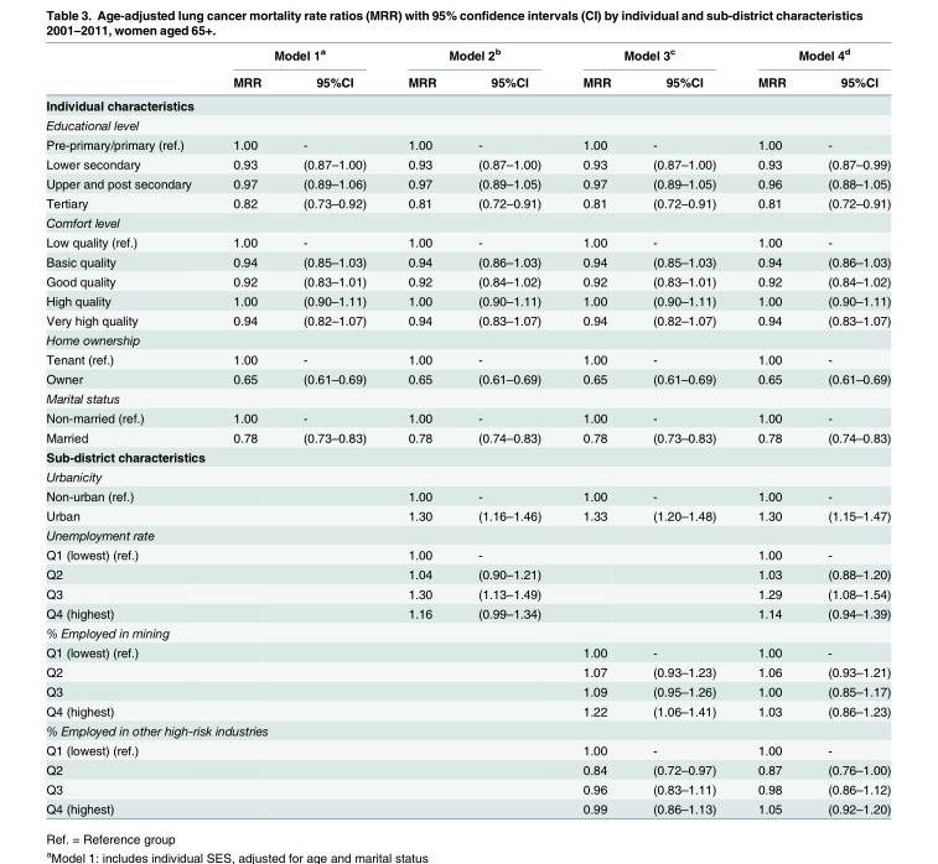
<table><thead><tr><td rowspan="2"></td><td colspan="2">Model 1<sup>a</sup></td><td colspan="2">Model 2<sup>b</sup></td><td colspan="2">Model 3<sup>c</sup></td><td colspan="2">Model 4<sup>d</sup></td></tr><tr><td>MRR</td><td>95%CI</td><td>MRR</td><td>95%CI</td><td>MRR</td><td>95%CI</td><td>MRR</td><td>95%CI</td></tr></thead><tbody><tr><td colspan="9">Individual characteristics</td></tr><tr><td colspan="9">Educational level</td></tr><tr><td>Pre-primary/primary (ref.)</td><td>1.00</td><td>-</td><td>1.00</td><td>-</td><td>1.00</td><td>-</td><td>1.00</td><td>-</td></tr><tr><td>Lower secondary</td><td>0.93</td><td>(0.87–1.00)</td><td>0.93</td><td>(0.87–1.00)</td><td>0.93</td><td>(0.87–1.00)</td><td>0.93</td><td>(0.87–0.99)</td></tr><tr><td>Upper and post secondary</td><td>0.97</td><td>(0.89–1.06)</td><td>0.97</td><td>(0.89–1.05)</td><td>0.97</td><td>(0.89–1.05)</td><td>0.96</td><td>(0.88–1.05)</td></tr><tr><td>Tertiary</td><td>0.82</td><td>(0.73–0.92)</td><td>0.81</td><td>(0.72–0.91)</td><td>0.81</td><td>(0.72–0.91)</td><td>0.81</td><td>(0.72–0.91)</td></tr><tr><td colspan="9">Comfort level</td></tr><tr><td>Low quality (ref.)</td><td>1.00</td><td>-</td><td>1.00</td><td>-</td><td>1.00</td><td>-</td><td>1.00</td><td>-</td></tr><tr><td>Basic quality</td><td>0.94</td><td>(0.85–1.03)</td><td>0.94</td><td>(0.86–1.03)</td><td>0.94</td><td>(0.85–1.03)</td><td>0.94</td><td>(0.86–1.03)</td></tr><tr><td>Good quality</td><td>0.92</td><td>(0.83–1.01)</td><td>0.92</td><td>(0.84–1.02)</td><td>0.92</td><td>(0.83–1.01)</td><td>0.92</td><td>(0.84–1.02)</td></tr><tr><td>High quality</td><td>1.00</td><td>(0.90–1.11)</td><td>1.00</td><td>(0.90–1.11)</td><td>1.00</td><td>(0.90–1.11)</td><td>1.00</td><td>(0.90–1.11)</td></tr><tr><td>Very high quality</td><td>0.94</td><td>(0.82–1.07)</td><td>0.94</td><td>(0.83–1.07)</td><td>0.94</td><td>(0.82–1.07)</td><td>0.94</td><td>(0.83–1.07)</td></tr><tr><td colspan="9">Home ownership</td></tr><tr><td>Tenant (ref.)</td><td>1.00</td><td>-</td><td>1.00</td><td>-</td><td>1.00</td><td>-</td><td>1.00</td><td>-</td></tr><tr><td>Owner</td><td>0.65</td><td>(0.61–0.69)</td><td>0.65</td><td>(0.61–0.69)</td><td>0.65</td><td>(0.61–0.69)</td><td>0.65</td><td>(0.61–0.69)</td></tr><tr><td colspan="9">Marital status</td></tr><tr><td>Non-married (ref.)</td><td>1.00</td><td>-</td><td>1.00</td><td>-</td><td>1.00</td><td>-</td><td>1.00</td><td>-</td></tr><tr><td>Married</td><td>0.78</td><td>(0.73–0.83)</td><td>0.78</td><td>(0.74–0.83)</td><td>0.78</td><td>(0.73–0.83)</td><td>0.78</td><td>(0.74–0.83)</td></tr><tr><td colspan="9">Sub-district characteristics</td></tr><tr><td colspan="9">Urbanicity</td></tr><tr><td>Non-urban (ref.)</td><td></td><td></td><td>1.00</td><td>-</td><td>1.00</td><td>-</td><td>1.00</td><td>-</td></tr><tr><td>Urban</td><td></td><td></td><td>1.30</td><td>(1.16–1.46)</td><td>1.33</td><td>(1.20–1.48)</td><td>1.30</td><td>(1.15–1.47)</td></tr><tr><td colspan="9">Unemployment rate</td></tr><tr><td>Q1 (lowest) (ref.)</td><td></td><td></td><td>1.00</td><td>-</td><td></td><td></td><td>1.00</td><td>-</td></tr><tr><td>Q2</td><td></td><td></td><td>1.04</td><td>(0.90–1.21)</td><td></td><td></td><td>1.03</td><td>(0.88–1.20)</td></tr><tr><td>Q3</td><td></td><td></td><td>1.30</td><td>(1.13–1.49)</td><td></td><td></td><td>1.29</td><td>(1.08–1.54)</td></tr><tr><td>Q4 (highest)</td><td></td><td></td><td>1.16</td><td>(0.99–1.34)</td><td></td><td></td><td>1.14</td><td>(0.94–1.39)</td></tr><tr><td colspan="9">% Employed in mining</td></tr><tr><td>Q1 (lowest) (ref.)</td><td></td><td></td><td></td><td></td><td>1.00</td><td>-</td><td>1.00</td><td>-</td></tr><tr><td>Q2</td><td></td><td></td><td></td><td></td><td>1.07</td><td>(0.93–1.23)</td><td>1.06</td><td>(0.93–1.21)</td></tr><tr><td>Q3</td><td></td><td></td><td></td><td></td><td>1.09</td><td>(0.95–1.26)</td><td>1.00</td><td>(0.85–1.17)</td></tr><tr><td>Q4 (highest)</td><td></td><td></td><td></td><td></td><td>1.22</td><td>(1.06–1.41)</td><td>1.03</td><td>(0.86–1.23)</td></tr><tr><td colspan="9">% Employed in other high-risk industries</td></tr><tr><td>Q1 (lowest) (ref.)</td><td></td><td></td><td></td><td></td><td>1.00</td><td>-</td><td>1.00</td><td>-</td></tr><tr><td>Q2</td><td></td><td></td><td></td><td></td><td>0.84</td><td>(0.72–0.97)</td><td>0.87</td><td>(0.76–1.00)</td></tr><tr><td>Q3</td><td></td><td></td><td></td><td></td><td>0.96</td><td>(0.83–1.11)</td><td>0.98</td><td>(0.86–1.12)</td></tr><tr><td>Q4 (highest)</td><td></td><td></td><td></td><td></td><td>0.99</td><td>(0.86–1.13)</td><td>1.05</td><td>(0.92–1.20)</td></tr></tbody></table>